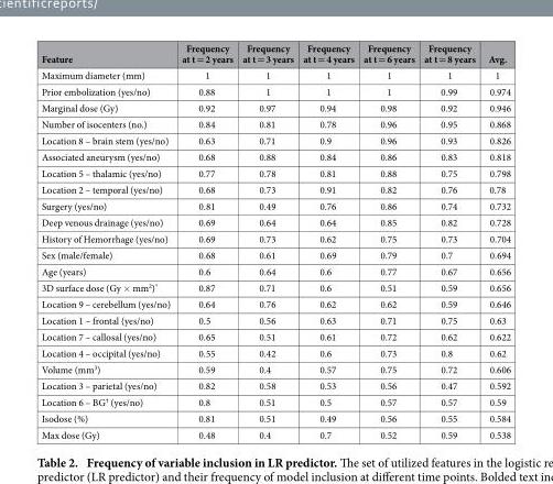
<table><thead><tr><td>Feature</td><td>Frequency at t = 2 years</td><td>Frequency at t = 3 years</td><td>Frequency at t = 4 years</td><td>Frequency at t = 6 years</td><td>Frequency at t = 8 years</td><td>Avg.</td></tr></thead><tbody><tr><td>Maximum diameter (mm)</td><td>1</td><td>1</td><td>1</td><td>1</td><td>1</td><td>1</td></tr><tr><td>Prior embolization (yes/no)</td><td>0.88</td><td>1</td><td>1</td><td>1</td><td>0.99</td><td>0.974</td></tr><tr><td>Marginal dose (Gy)</td><td>0.92</td><td>0.97</td><td>0.94</td><td>0.98</td><td>0.92</td><td>0.946</td></tr><tr><td>Number of isocenters (no.)</td><td>0.84</td><td>0.81</td><td>0.78</td><td>0.96</td><td>0.95</td><td>0.868</td></tr><tr><td>Location 8 – brain stem (yes/no)</td><td>0.63</td><td>0.71</td><td>0.9</td><td>0.96</td><td>0.93</td><td>0.826</td></tr><tr><td>Associated aneurysm (yes/no)</td><td>0.68</td><td>0.88</td><td>0.84</td><td>0.86</td><td>0.83</td><td>0.818</td></tr><tr><td>Location 5 – thalamic (yes/no)</td><td>0.77</td><td>0.78</td><td>0.81</td><td>0.88</td><td>0.75</td><td>0.798</td></tr><tr><td>Location 2 – temporal (yes/no)</td><td>0.68</td><td>0.73</td><td>0.91</td><td>0.82</td><td>0.76</td><td>0.78</td></tr><tr><td>Surgery (yes/no)</td><td>0.81</td><td>0.49</td><td>0.76</td><td>0.86</td><td>0.74</td><td>0.732</td></tr><tr><td>Deep venous drainage (yes/no)</td><td>0.69</td><td>0.64</td><td>0.64</td><td>0.85</td><td>0.82</td><td>0.728</td></tr><tr><td>History of Hemorrhage (yes/no)</td><td>0.69</td><td>0.73</td><td>0.62</td><td>0.75</td><td>0.73</td><td>0.704</td></tr><tr><td>Sex (male/female)</td><td>0.68</td><td>0.61</td><td>0.69</td><td>0.79</td><td>0.7</td><td>0.694</td></tr><tr><td>Age (years)</td><td>0.6</td><td>0.64</td><td>0.6</td><td>0.77</td><td>0.67</td><td>0.656</td></tr><tr><td>3D surface dose (Gy × mm<sup>2</sup>)*</td><td>0.87</td><td>0.71</td><td>0.6</td><td>0.51</td><td>0.59</td><td>0.656</td></tr><tr><td>Location 9 – cerebellum (yes/no)</td><td>0.64</td><td>0.76</td><td>0.62</td><td>0.62</td><td>0.59</td><td>0.646</td></tr><tr><td>Location 1 – frontal (yes/no)</td><td>0.5</td><td>0.56</td><td>0.63</td><td>0.71</td><td>0.75</td><td>0.63</td></tr><tr><td>Location 7 – callosal (yes/no)</td><td>0.65</td><td>0.51</td><td>0.61</td><td>0.72</td><td>0.62</td><td>0.622</td></tr><tr><td>Location 4 – occipital (yes/no)</td><td>0.55</td><td>0.42</td><td>0.6</td><td>0.73</td><td>0.8</td><td>0.62</td></tr><tr><td>Volume (mm<sup>3</sup>)</td><td>0.59</td><td>0.4</td><td>0.57</td><td>0.75</td><td>0.72</td><td>0.606</td></tr><tr><td>Location 3 – parietal (yes/no)</td><td>0.82</td><td>0.58</td><td>0.53</td><td>0.56</td><td>0.47</td><td>0.592</td></tr><tr><td>Location 6 – BG† (yes/no)</td><td>0.8</td><td>0.51</td><td>0.5</td><td>0.57</td><td>0.57</td><td>0.59</td></tr><tr><td>Isodose (%)</td><td>0.81</td><td>0.51</td><td>0.49</td><td>0.56</td><td>0.55</td><td>0.584</td></tr><tr><td>Max dose (Gy)</td><td>0.48</td><td>0.4</td><td>0.7</td><td>0.52</td><td>0.59</td><td>0.538</td></tr></tbody></table>